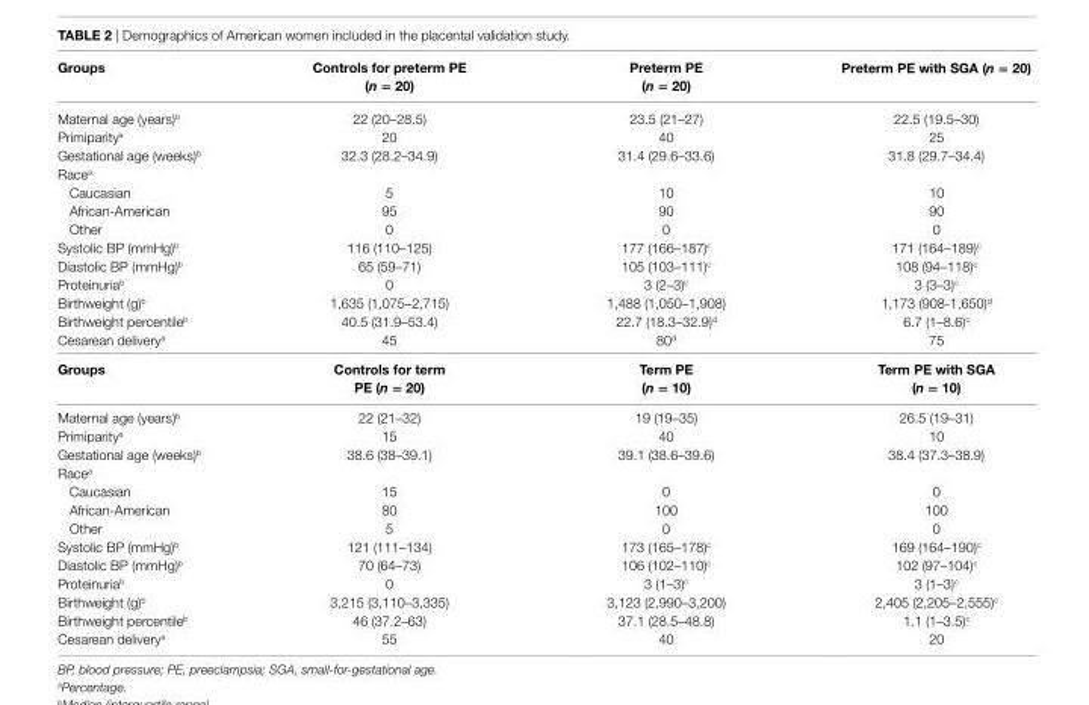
<table><thead><tr><td>groups</td><td>controls for preterm Pe (n = 20)</td><td>Preterm Pe (n = 20)</td><td>Preterm Pe with sga (n = 20)</td></tr></thead><tbody><tr><td>Maternal age (years)<sup>b</sup></td><td>22 (20–28.5)</td><td>23.5 (21–27)</td><td>22.5 (19.5–30)</td></tr><tr><td>Primiparity<sup>a</sup></td><td>20</td><td>40</td><td>25</td></tr><tr><td>Gestational age (weeks)<sup>b</sup></td><td>32.3 (28.2–34.9)</td><td>31.4 (29.6–33.6)</td><td>31.8 (29.7–34.4)</td></tr><tr><td colspan="4">Race<sup>a</sup></td></tr><tr><td>Caucasian</td><td>5</td><td>10</td><td>10</td></tr><tr><td>African-American</td><td>95</td><td>90</td><td>90</td></tr><tr><td>Other</td><td>0</td><td>0</td><td>0</td></tr><tr><td>Systolic BP (mmHg)<sup>b</sup></td><td>116 (110–125)</td><td>177 (166–187)<sup>c</sup></td><td>171 (164–189)<sup>c</sup></td></tr><tr><td>Diastolic BP (mmHg)<sup>b</sup></td><td>65 (59–71)</td><td>105 (103–111)<sup>c</sup></td><td>108 (94–118)<sup>c</sup></td></tr><tr><td>Proteinuria<sup>b</sup></td><td>0</td><td>3 (2–3)<sup>c</sup></td><td>3 (3–3)<sup>c</sup></td></tr><tr><td>Birthweight (g)<sup>b</sup></td><td>1,635 (1,075–2,715)</td><td>1,488 (1,050–1,908)</td><td>1,173 (908-1,650)<sup>d</sup></td></tr><tr><td>Birthweight percentile<sup>b</sup></td><td>40.5 (31.9–53.4)</td><td>22.7 (18.3–32.9)<sup>d</sup></td><td>6.7 (1–8.6)<sup>c</sup></td></tr><tr><td>Cesarean delivery<sup>a</sup></td><td>45</td><td>80<sup>d</sup></td><td>75</td></tr><tr><td>groups</td><td>controls for term Pe (n = 20)</td><td>Term Pe (n = 10)</td><td>Term Pe with sga (n = 10)</td></tr><tr><td>Maternal age (years)<sup>b</sup></td><td>22 (21–32)</td><td>19 (19–35)</td><td>26.5 (19–31)</td></tr><tr><td>Primiparity<sup>a</sup></td><td>15</td><td>40</td><td>10</td></tr><tr><td>Gestational age (weeks)<sup>b</sup></td><td>38.6 (38–39.1)</td><td>39.1 (38.6–39.6)</td><td>38.4 (37.3–38.9)</td></tr><tr><td colspan="4">Race<sup>a</sup></td></tr><tr><td>Caucasian</td><td>15</td><td>0</td><td>0</td></tr><tr><td>African-American</td><td>80</td><td>100</td><td>100</td></tr><tr><td>Other</td><td>5</td><td>0</td><td>0</td></tr><tr><td>Systolic BP (mmHg)<sup>b</sup></td><td>121 (111–134)</td><td>173 (165–178)<sup>c</sup></td><td>169 (164–190)<sup>c</sup></td></tr><tr><td>Diastolic BP (mmHg)<sup>b</sup></td><td>70 (64–73)</td><td>106 (102–110)<sup>c</sup></td><td>102 (97–104)<sup>c</sup></td></tr><tr><td>Proteinuria<sup>b</sup></td><td>0</td><td>3 (1–3)<sup>c</sup></td><td>3 (1–3)<sup>c</sup></td></tr><tr><td>Birthweight (g)<sup>b</sup></td><td>3,215 (3,110–3,335)</td><td>3,123 (2,990–3,200)</td><td>2,405 (2,205–2,555)<sup>c</sup></td></tr><tr><td>Birthweight percentile<sup>b</sup></td><td>46 (37.2–63)</td><td>37.1 (28.5–48.8)</td><td>1.1 (1–3.5)<sup>c</sup></td></tr><tr><td>Cesarean delivery<sup>a</sup></td><td>55</td><td>40</td><td>20</td></tr></tbody></table>